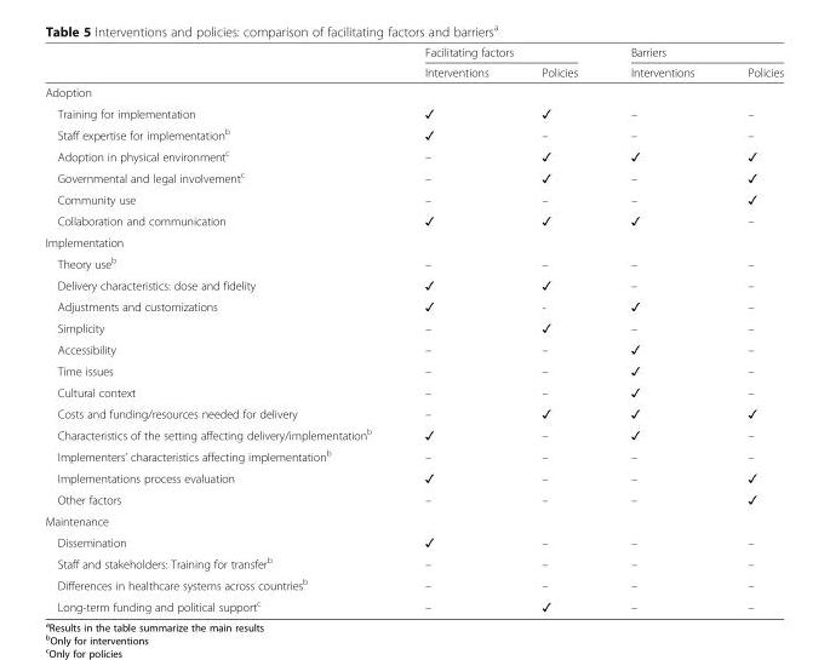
<table><thead><tr><td rowspan="2"></td><td colspan="2">Facilitating factors</td><td colspan="2">Barriers</td></tr><tr><td>Interventions</td><td>Policies</td><td>Interventions</td><td>Policies</td></tr></thead><tbody><tr><td colspan="5">Adoption</td></tr><tr><td>Training for implementation</td><td>✓</td><td>✓</td><td>–</td><td>–</td></tr><tr><td>Staff expertise for implementation<sup>b</sup></td><td>✓</td><td>–</td><td>–</td><td>–</td></tr><tr><td>Adoption in physical environment<sup>c</sup></td><td>–</td><td>✓</td><td>✓</td><td>✓</td></tr><tr><td>Governmental and legal involvement<sup>c</sup></td><td>–</td><td>✓</td><td>–</td><td>✓</td></tr><tr><td>Community use</td><td>–</td><td>–</td><td>–</td><td>✓</td></tr><tr><td>Collaboration and communication</td><td>✓</td><td>✓</td><td>✓</td><td>–</td></tr><tr><td colspan="5">Implementation</td></tr><tr><td>Theory use<sup>b</sup></td><td>–</td><td>–</td><td>–</td><td>–</td></tr><tr><td>Delivery characteristics: dose and fidelity</td><td>✓</td><td>✓</td><td>–</td><td>–</td></tr><tr><td>Adjustments and customizations</td><td>✓</td><td>-</td><td>✓</td><td>–</td></tr><tr><td>Simplicity</td><td>–</td><td>✓</td><td>–</td><td>–</td></tr><tr><td>Accessibility</td><td>–</td><td>–</td><td>✓</td><td>–</td></tr><tr><td>Time issues</td><td>–</td><td>–</td><td>✓</td><td>–</td></tr><tr><td>Cultural context</td><td>–</td><td>–</td><td>✓</td><td>–</td></tr><tr><td>Costs and funding/resources needed for delivery</td><td>–</td><td>✓</td><td>✓</td><td>✓</td></tr><tr><td>Characteristics of the setting affecting delivery/implementation<sup>b</sup></td><td>✓</td><td>–</td><td>✓</td><td>–</td></tr><tr><td>Implementers’ characteristics affecting implementation<sup>b</sup></td><td>–</td><td>–</td><td>–</td><td>–</td></tr><tr><td>Implementations process evaluation</td><td>✓</td><td>–</td><td>–</td><td>✓</td></tr><tr><td>Other factors</td><td>–</td><td>–</td><td>–</td><td>✓</td></tr><tr><td colspan="5">Maintenance</td></tr><tr><td>Dissemination</td><td>✓</td><td>–</td><td>–</td><td>–</td></tr><tr><td>Staff and stakeholders: Training for transfer<sup>b</sup></td><td>–</td><td>–</td><td>–</td><td>–</td></tr><tr><td>Differences in healthcare systems across countries<sup>b</sup></td><td>–</td><td>–</td><td>–</td><td>–</td></tr><tr><td>Long-term funding and political support<sup>c</sup></td><td>–</td><td>✓</td><td>–</td><td>–</td></tr></tbody></table>